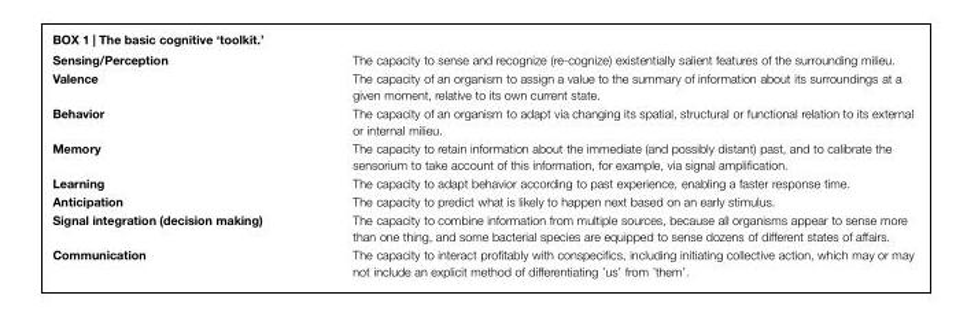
<table><tbody><tr><td>Sensing/Perception</td><td>The capacity to sense and recognize (re-cognize) existentially salient features of the surrounding milieu.</td></tr><tr><td>Valence</td><td>The capacity of an organism to assign a value to the summary of information about its surroundings at a given moment, relative to its own current state.</td></tr><tr><td>Behavior</td><td>The capacity of an organism to adapt via changing its spatial, structural or functional relation to its external or internal milieu.</td></tr><tr><td>Memory</td><td>The capacity to retain information about the immediate (and possibly distant) past, and to calibrate the sensorium to take account of this information, for example, via signal amplification.</td></tr><tr><td>Learning</td><td>The capacity to adapt behavior according to past experience, enabling a faster response time.</td></tr><tr><td>Anticipation</td><td>The capacity to predict what is likely to happen next based on an early stimulus.</td></tr><tr><td>Signal integration (decision making)</td><td>The capacity to combine information from multiple sources, because all organisms appear to sense more than one thing, and some bacterial species are equipped to sense dozens of different states of affairs.</td></tr><tr><td>Communication</td><td>The capacity to interact profitably with conspecifics, including initiating collective action, which may or may not include an explicit method of differentiating ’us’ from ’them’.</td></tr></tbody></table>